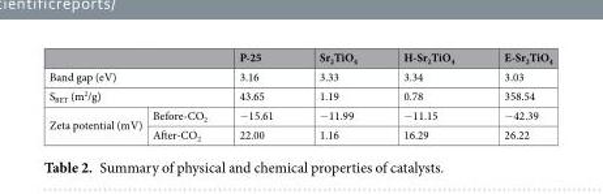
<table><thead><tr><td></td><td></td><td>P-25</td><td>Sr<sub>2</sub>TiO<sub>4</sub></td><td>H-Sr<sub>2</sub>TiO<sub>4</sub></td><td>E-Sr<sub>2</sub>TiO<sub>4</sub></td></tr></thead><tbody><tr><td colspan="2">Band gap (eV)</td><td>3.16</td><td>3.33</td><td>3.34</td><td>3.03</td></tr><tr><td colspan="2">S<sub>BET</sub> (m<sup>2</sup>/g)</td><td>43.65</td><td>1.19</td><td>0.78</td><td>358.54</td></tr><tr><td rowspan="2">Zeta potential (mV)</td><td>Before-CO<sub>2</sub></td><td>-15.61</td><td>-11.99</td><td>-11.15</td><td>-42.39</td></tr><tr><td>After-CO<sub>2</sub></td><td>22.00</td><td>1.16</td><td>16.29</td><td>26.22</td></tr></tbody></table>